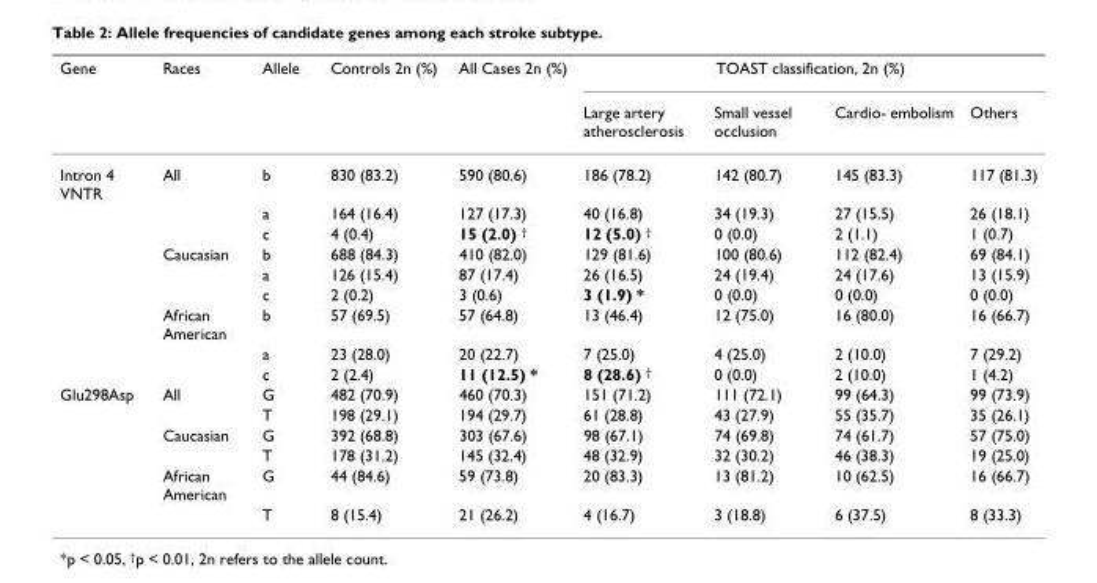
<table><thead><tr><td rowspan="2">Gene</td><td rowspan="2">Races</td><td rowspan="2">Allele</td><td rowspan="2">Controls 2n (%)</td><td rowspan="2">All Cases 2n (%)</td><td colspan="4">TOAST classification, 2n (%)</td></tr><tr><td>Large artery atherosclerosis</td><td>Small vessel occlusion</td><td>Cardio- embolism</td><td>Others</td></tr></thead><tbody><tr><td rowspan="9">Intron 4 VNTR</td><td>All</td><td>b</td><td>830 (83.2)</td><td>590 (80.6)</td><td>186 (78.2)</td><td>142 (80.7)</td><td>145 (83.3)</td><td>117 (81.3)</td></tr><tr><td></td><td>a</td><td>164 (16.4)</td><td>127 (17.3)</td><td>40 (16.8)</td><td>34 (19.3)</td><td>27 (15.5)</td><td>26 (18.1)</td></tr><tr><td></td><td>c</td><td>4 (0.4)</td><td>15 (2.0) <sup>†</sup></td><td>12 (5.0) <sup>†</sup></td><td>0 (0.0)</td><td>2 (1.1)</td><td>1 (0.7)</td></tr><tr><td>Caucasian</td><td>b</td><td>688 (84.3)</td><td>410 (82.0)</td><td>129 (81.6)</td><td>100 (80.6)</td><td>112 (82.4)</td><td>69 (84.1)</td></tr><tr><td></td><td>a</td><td>126 (15.4)</td><td>87 (17.4)</td><td>26 (16.5)</td><td>24 (19.4)</td><td>24 (17.6)</td><td>13 (15.9)</td></tr><tr><td></td><td>c</td><td>2 (0.2)</td><td>3 (0.6)</td><td>3 (1.9) *</td><td>0 (0.0)</td><td>0 (0.0)</td><td>0 (0.0)</td></tr><tr><td>African American</td><td>b</td><td>57 (69.5)</td><td>57 (64.8)</td><td>13 (46.4)</td><td>12 (75.0)</td><td>16 (80.0)</td><td>16 (66.7)</td></tr><tr><td></td><td>a</td><td>23 (28.0)</td><td>20 (22.7)</td><td>7 (25.0)</td><td>4 (25.0)</td><td>2 (10.0)</td><td>7 (29.2)</td></tr><tr><td></td><td>c</td><td>2 (2.4)</td><td>11 (12.5) *</td><td>8 (28.6) <sup>†</sup></td><td>0 (0.0)</td><td>2 (10.0)</td><td>1 (4.2)</td></tr><tr><td rowspan="6">Glu298Asp</td><td>All</td><td>G</td><td>482 (70.9)</td><td>460 (70.3)</td><td>151 (71.2)</td><td>111 (72.1)</td><td>99 (64.3)</td><td>99 (73.9)</td></tr><tr><td></td><td>T</td><td>198 (29.1)</td><td>194 (29.7)</td><td>61 (28.8)</td><td>43 (27.9)</td><td>55 (35.7)</td><td>35 (26.1)</td></tr><tr><td>Caucasian</td><td>G</td><td>392 (68.8)</td><td>303 (67.6)</td><td>98 (67.1)</td><td>74 (69.8)</td><td>74 (61.7)</td><td>57 (75.0)</td></tr><tr><td></td><td>T</td><td>178 (31.2)</td><td>145 (32.4)</td><td>48 (32.9)</td><td>32 (30.2)</td><td>46 (38.3)</td><td>19 (25.0)</td></tr><tr><td>African American</td><td>G</td><td>44 (84.6)</td><td>59 (73.8)</td><td>20 (83.3)</td><td>13 (81.2)</td><td>10 (62.5)</td><td>16 (66.7)</td></tr><tr><td></td><td>T</td><td>8 (15.4)</td><td>21 (26.2)</td><td>4 (16.7)</td><td>3 (18.8)</td><td>6 (37.5)</td><td>8 (33.3)</td></tr></tbody></table>